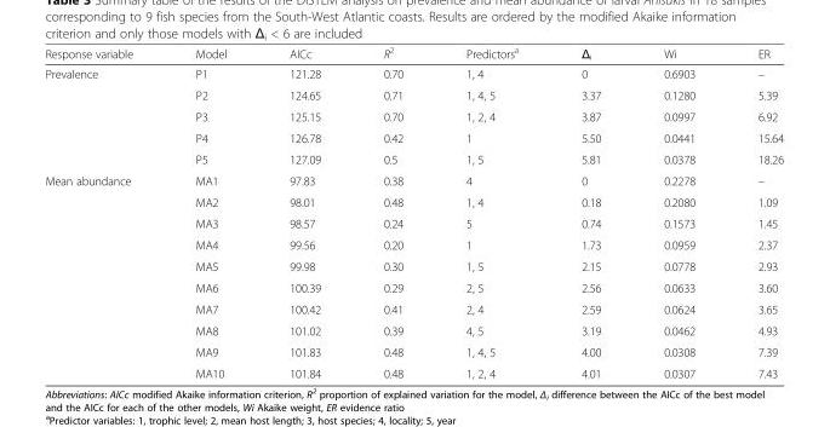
<table><thead><tr><td>Response variable</td><td>Model</td><td>AICc</td><td>R<sup>2</sup></td><td>Predictors<sup>a</sup></td><td>Δ<sub>i</sub></td><td>Wi</td><td>ER</td></tr></thead><tbody><tr><td rowspan="5">Prevalence</td><td>P1</td><td>121.28</td><td>0.70</td><td>1, 4</td><td>0</td><td>0.6903</td><td>–</td></tr><tr><td>P2</td><td>124.65</td><td>0.71</td><td>1, 4, 5</td><td>3.37</td><td>0.1280</td><td>5.39</td></tr><tr><td>P3</td><td>125.15</td><td>0.70</td><td>1, 2, 4</td><td>3.87</td><td>0.0997</td><td>6.92</td></tr><tr><td>P4</td><td>126.78</td><td>0.42</td><td>1</td><td>5.50</td><td>0.0441</td><td>15.64</td></tr><tr><td>P5</td><td>127.09</td><td>0.5</td><td>1, 5</td><td>5.81</td><td>0.0378</td><td>18.26</td></tr><tr><td rowspan="10">Mean abundance</td><td>MA1</td><td>97.83</td><td>0.38</td><td>4</td><td>0</td><td>0.2278</td><td>–</td></tr><tr><td>MA2</td><td>98.01</td><td>0.48</td><td>1, 4</td><td>0.18</td><td>0.2080</td><td>1.09</td></tr><tr><td>MA3</td><td>98.57</td><td>0.24</td><td>5</td><td>0.74</td><td>0.1573</td><td>1.45</td></tr><tr><td>MA4</td><td>99.56</td><td>0.20</td><td>1</td><td>1.73</td><td>0.0959</td><td>2.37</td></tr><tr><td>MA5</td><td>99.98</td><td>0.30</td><td>1, 5</td><td>2.15</td><td>0.0778</td><td>2.93</td></tr><tr><td>MA6</td><td>100.39</td><td>0.29</td><td>2, 5</td><td>2.56</td><td>0.0633</td><td>3.60</td></tr><tr><td>MA7</td><td>100.42</td><td>0.41</td><td>2, 4</td><td>2.59</td><td>0.0624</td><td>3.65</td></tr><tr><td>MA8</td><td>101.02</td><td>0.39</td><td>4, 5</td><td>3.19</td><td>0.0462</td><td>4.93</td></tr><tr><td>MA9</td><td>101.83</td><td>0.48</td><td>1, 4, 5</td><td>4.00</td><td>0.0308</td><td>7.39</td></tr><tr><td>MA10</td><td>101.84</td><td>0.48</td><td>1, 2, 4</td><td>4.01</td><td>0.0307</td><td>7.43</td></tr></tbody></table>